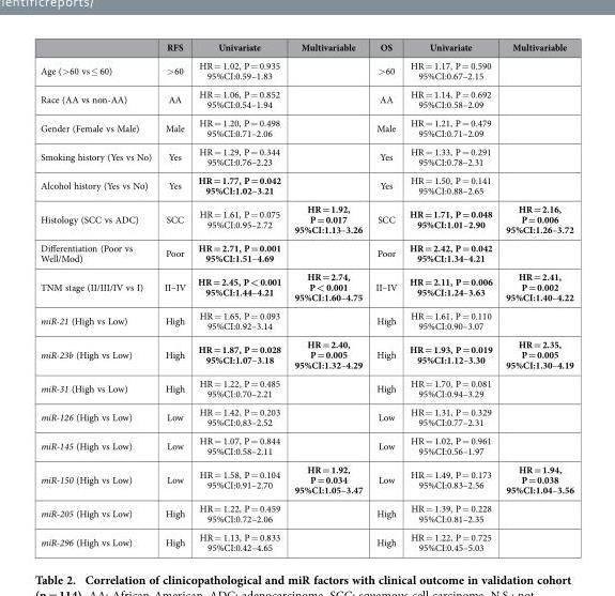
<table><thead><tr><td></td><td>RFS</td><td>Univariate</td><td>Multivariable</td><td>OS</td><td>Univariate</td><td>Multivariable</td></tr></thead><tbody><tr><td>Age (&gt; 60 vs ≤ 60)</td><td>&gt; 60</td><td>HR = 1.02, P = 0.935 95%CI:0.59–1.83</td><td></td><td>&gt; 60</td><td>HR = 1.17, P = 0.590 95%CI:0.67–2.15</td><td></td></tr><tr><td>Race (AA vs non-AA)</td><td>AA</td><td>HR = 1.06, P = 0.852 95%CI:0.54–1.94</td><td></td><td>AA</td><td>HR = 1.14, P = 0.692 95%CI:0.58–2.09</td><td></td></tr><tr><td>Gender (Female vs Male)</td><td>Male</td><td>HR = 1.20, P = 0.498 95%CI:0.71–2.06</td><td></td><td>Male</td><td>HR = 1.21, P = 0.479 95%CI:0.71–2.09</td><td></td></tr><tr><td>Smoking history (Yes vs No)</td><td>Yes</td><td>HR = 1.29, P = 0.344 95%CI:0.76–2.23</td><td></td><td>Yes</td><td>HR = 1.33, P = 0.291 95%CI:0.78–2.31</td><td></td></tr><tr><td>Alcohol history (Yes vs No)</td><td>Yes</td><td>HR = 1.77, P = 0.042 95%CI:1.02–3.21</td><td></td><td>Yes</td><td>HR = 1.50, P = 0.141 95%CI:0.88–2.65</td><td></td></tr><tr><td>Histology (SCC vs ADC)</td><td>SCC</td><td>HR = 1.61, P = 0.075 95%CI:0.95–2.72</td><td>HR = 1.92, P = 0.017 95%CI:1.13–3.26</td><td>SCC</td><td>HR = 1.71, P = 0.048 95%CI:1.01–2.90</td><td>HR = 2.16, P = 0.006 95%CI:1.26–3.72</td></tr><tr><td>Differentiation (Poor vs Well/Mod)</td><td>Poor</td><td>HR = 2.71, P = 0.001 95%CI:1.51–4.69</td><td></td><td>Poor</td><td>HR = 2.42, P = 0.042 95%CI:1.34–4.21</td><td></td></tr><tr><td>TNM stage (II/III/IV vs I)</td><td>II–IV</td><td>HR = 2.45, P &lt; 0.001 95%CI:1.44–4.21</td><td>HR = 2.74, P &lt; 0.001 95%CI:1.60–4.75</td><td>II–IV</td><td>HR = 2.11, P = 0.006 95%CI:1.24–3.63</td><td>HR = 2.41, P = 0.002 95%CI:1.40–4.22</td></tr><tr><td>miR-21 (High vs Low)</td><td>High</td><td>HR = 1.65, P = 0.093 95%CI:0.92–3.14</td><td></td><td>High</td><td>HR = 1.61, P = 0.110 95%CI:0.90–3.07</td><td></td></tr><tr><td>miR-23b (High vs Low)</td><td>High</td><td>HR = 1.87, P = 0.028 95%CI:1.07–3.18</td><td>HR = 2.40, P = 0.005 95%CI:1.32–4.29</td><td>High</td><td>HR = 1.93, P = 0.019 95%CI:1.12–3.30</td><td>HR = 2.35, P = 0.005 95%CI:1.30–4.19</td></tr><tr><td>miR-31 (High vs Low)</td><td>High</td><td>HR = 1.22, P = 0.485 95%CI:0.70–2.21</td><td></td><td>High</td><td>HR = 1.70, P = 0.081 95%CI:0.94–3.29</td><td></td></tr><tr><td>miR-126 (High vs Low)</td><td>Low</td><td>HR = 1.42, P = 0.203 95%CI:0.83–2.52</td><td></td><td>Low</td><td>HR = 1.31, P = 0.329 95%CI:0.77–2.31</td><td></td></tr><tr><td>miR-145 (High vs Low)</td><td>Low</td><td>HR = 1.07, P = 0.844 95%CI:0.58–2.11</td><td></td><td>Low</td><td>HR = 1.02, P = 0.961 95%CI:0.56–1.97</td><td></td></tr><tr><td>miR-150 (High vs Low)</td><td>Low</td><td>HR = 1.58, P = 0.104 95%CI:0.91–2.70</td><td>HR = 1.92, P = 0.034 95%CI:1.05–3.47</td><td>Low</td><td>HR = 1.49, P = 0.173 95%CI:0.83–2.56</td><td>HR = 1.94, P = 0.038 95%CI:1.04–3.56</td></tr><tr><td>miR-205 (High vs Low)</td><td>High</td><td>HR = 1.22, P = 0.459 95%CI:0.72–2.06</td><td></td><td>High</td><td>HR = 1.39, P = 0.228 95%CI:0.81–2.35</td><td></td></tr><tr><td>miR-296 (High vs Low)</td><td>High</td><td>HR = 1.13, P = 0.833 95%CI:0.42–4.65</td><td></td><td>High</td><td>HR = 1.22, P = 0.725 95%CI:0.45–5.03</td><td></td></tr></tbody></table>